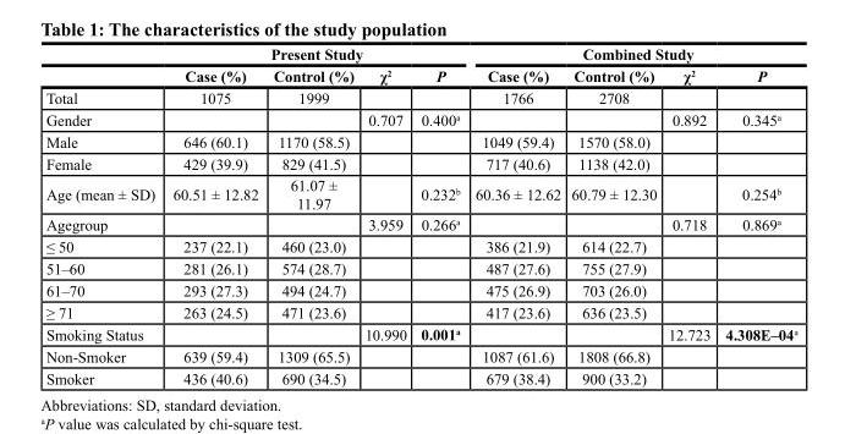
<table><thead><tr><td rowspan="2"></td><td colspan="4">Present Study</td><td colspan="4">Combined Study</td></tr><tr><td>Case (%)</td><td>Control (%)</td><td>χ<sup>2</sup></td><td>P</td><td>Case (%)</td><td>Control (%)</td><td>χ<sup>2</sup></td><td>P</td></tr></thead><tbody><tr><td>Total</td><td>1075</td><td>1999</td><td></td><td></td><td>1766</td><td>2708</td><td></td><td></td></tr><tr><td>Gender</td><td></td><td></td><td>0.707</td><td>0.400<sup>a</sup></td><td></td><td></td><td>0.892</td><td>0.345<sup>a</sup></td></tr><tr><td>Male</td><td>646 (60.1)</td><td>1170 (58.5)</td><td></td><td></td><td>1049 (59.4)</td><td>1570 (58.0)</td><td></td><td></td></tr><tr><td>Female</td><td>429 (39.9)</td><td>829 (41.5)</td><td></td><td></td><td>717 (40.6)</td><td>1138 (42.0)</td><td></td><td></td></tr><tr><td>Age (mean ± SD)</td><td>60.51 ± 12.82</td><td>61.07 ± 11.97</td><td></td><td>0.232<sup>b</sup></td><td>60.36 ± 12.62</td><td>60.79 ± 12.30</td><td></td><td>0.254<sup>b</sup></td></tr><tr><td>Agegroup</td><td></td><td></td><td>3.959</td><td>0.266<sup>a</sup></td><td></td><td></td><td>0.718</td><td>0.869<sup>a</sup></td></tr><tr><td>≤ 50</td><td>237 (22.1)</td><td>460 (23.0)</td><td></td><td></td><td>386 (21.9)</td><td>614 (22.7)</td><td></td><td></td></tr><tr><td>51–60</td><td>281 (26.1)</td><td>574 (28.7)</td><td></td><td></td><td>487 (27.6)</td><td>755 (27.9)</td><td></td><td></td></tr><tr><td>61–70</td><td>293 (27.3)</td><td>494 (24.7)</td><td></td><td></td><td>475 (26.9)</td><td>703 (26.0)</td><td></td><td></td></tr><tr><td>≥ 71</td><td>263 (24.5)</td><td>471 (23.6)</td><td></td><td></td><td>417 (23.6)</td><td>636 (23.5)</td><td></td><td></td></tr><tr><td>Smoking Status</td><td></td><td></td><td>10.990</td><td>0.001<sup>a</sup></td><td></td><td></td><td>12.723</td><td>4.308E–04<sup>a</sup></td></tr><tr><td>Non-Smoker</td><td>639 (59.4)</td><td>1309 (65.5)</td><td></td><td></td><td>1087 (61.6)</td><td>1808 (66.8)</td><td></td><td></td></tr><tr><td>Smoker</td><td>436 (40.6)</td><td>690 (34.5)</td><td></td><td></td><td>679 (38.4)</td><td>900 (33.2)</td><td></td><td></td></tr></tbody></table>